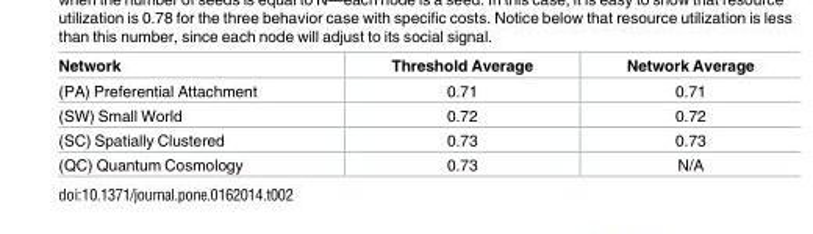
<table><thead><tr><td>Network</td><td>Threshold Average</td><td>Network Average</td></tr></thead><tbody><tr><td>(PA) Preferential Attachment</td><td>0.71</td><td>0.71</td></tr><tr><td>(SW) Small World</td><td>0.72</td><td>0.72</td></tr><tr><td>(SC) Spatially Clustered</td><td>0.73</td><td>0.73</td></tr><tr><td>(QC) Quantum Cosmology</td><td>0.73</td><td>N/A</td></tr></tbody></table>